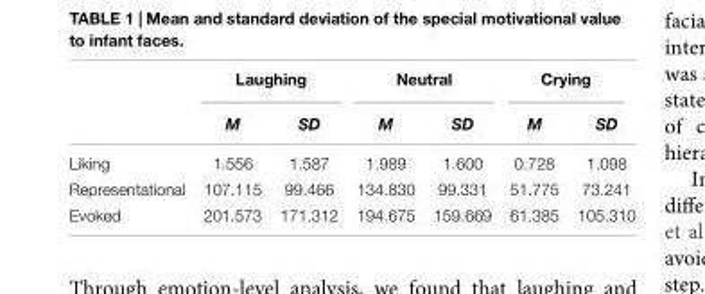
<table><thead><tr><td rowspan="2"></td><td colspan="2">Laughing</td><td colspan="2">Neutral</td><td colspan="2">Crying</td></tr><tr><td>M</td><td>SD</td><td>M</td><td>SD</td><td>M</td><td>SD</td></tr></thead><tbody><tr><td>Liking</td><td>1.556</td><td>1.587</td><td>1.989</td><td>1.600</td><td>0.728</td><td>1.098</td></tr><tr><td>Representational</td><td>107.115</td><td>99.466</td><td>134.830</td><td>99.331</td><td>51.775</td><td>73.241</td></tr><tr><td>Evoked</td><td>201.573</td><td>171.312</td><td>194.675</td><td>159.669</td><td>61.385</td><td>105.310</td></tr></tbody></table>